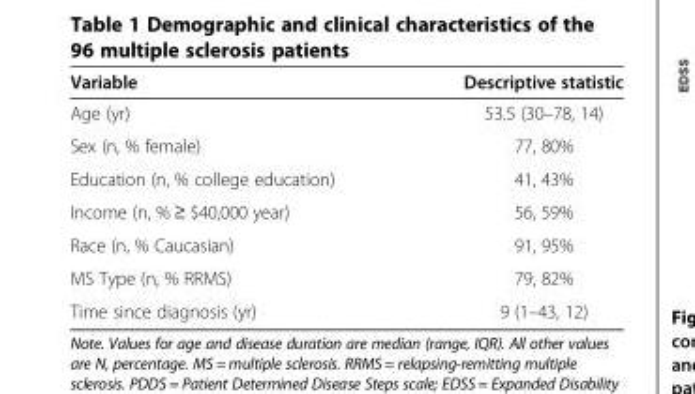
<table><thead><tr><td>Variable</td><td>Descriptive statistic</td></tr></thead><tbody><tr><td>Age (yr)</td><td>53.5 (30–78, 14)</td></tr><tr><td>Sex (n, % female)</td><td>77, 80%</td></tr><tr><td>Education (n, % college education)</td><td>41, 43%</td></tr><tr><td>Income (n, % ≥ $40,000 year)</td><td>56, 59%</td></tr><tr><td>Race (n, % Caucasian)</td><td>91, 95%</td></tr><tr><td>MS Type (n, % RRMS)</td><td>79, 82%</td></tr><tr><td>Time since diagnosis (yr)</td><td>9 (1–43, 12)</td></tr></tbody></table>